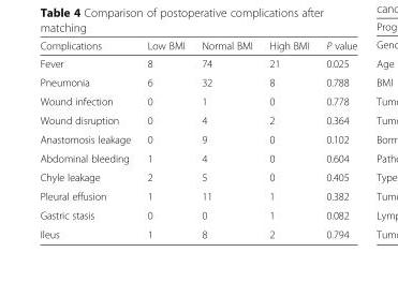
<table><thead><tr><td>Complications</td><td>Low BMI</td><td>Normal BMI</td><td>High BMI</td><td>P value</td></tr></thead><tbody><tr><td>Fever</td><td>8</td><td>74</td><td>21</td><td>0.025</td></tr><tr><td>Pneumonia</td><td>6</td><td>32</td><td>8</td><td>0.788</td></tr><tr><td>Wound infection</td><td>0</td><td>1</td><td>0</td><td>0.778</td></tr><tr><td>Wound disruption</td><td>0</td><td>4</td><td>2</td><td>0.364</td></tr><tr><td>Anastomosis leakage</td><td>0</td><td>9</td><td>0</td><td>0.102</td></tr><tr><td>Abdominal bleeding</td><td>1</td><td>4</td><td>0</td><td>0.604</td></tr><tr><td>Chyle leakage</td><td>2</td><td>5</td><td>0</td><td>0.405</td></tr><tr><td>Pleural effusion</td><td>1</td><td>11</td><td>1</td><td>0.382</td></tr><tr><td>Gastric stasis</td><td>0</td><td>0</td><td>1</td><td>0.082</td></tr><tr><td>Ileus</td><td>1</td><td>8</td><td>2</td><td>0.794</td></tr></tbody></table>